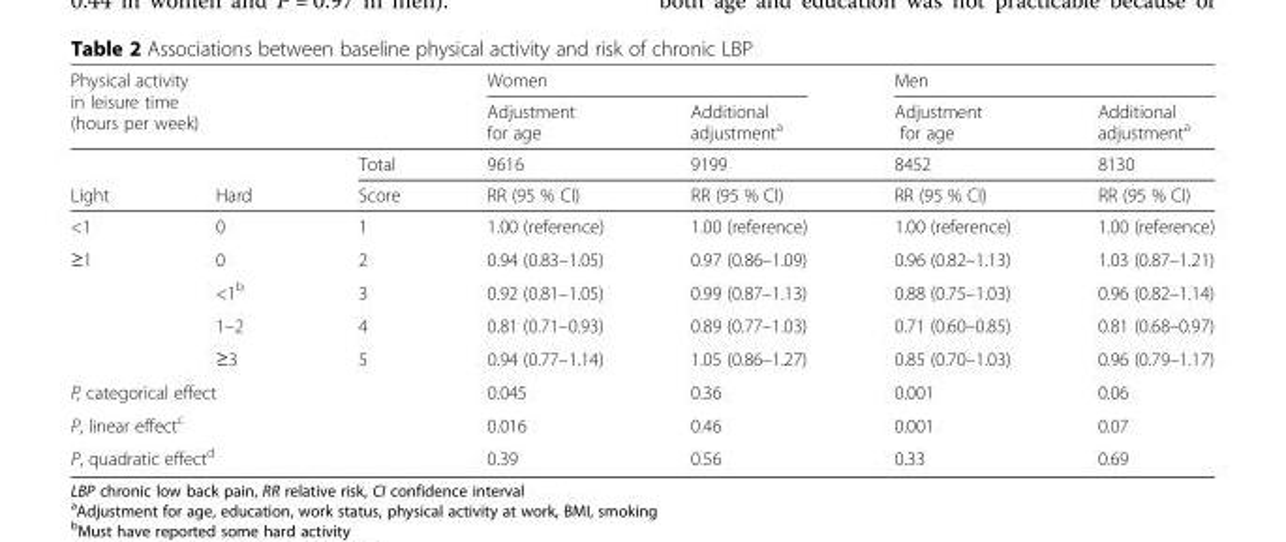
<table><thead><tr><td rowspan="2" colspan="2">Physical activity in leisure time (hours per week)</td><td rowspan="4">Total Score</td><td colspan="2">Women</td><td colspan="2">Men</td></tr><tr><td rowspan="3">Adjustment for age 9616 RR (95 % CI)</td><td rowspan="3">Additional adjustment<sup>a</sup> 9199 RR (95 % CI)</td><td rowspan="3">Adjustment for age 8452 RR (95 % CI)</td><td rowspan="3">Additional adjustment<sup>a</sup> 8130 RR (95 % CI)</td></tr><tr><td rowspan="2">Light</td><td rowspan="2">Hard</td></tr><tr></tr></thead><tbody><tr><td>&lt;1</td><td>0</td><td>1</td><td>1.00 (reference)</td><td>1.00 (reference)</td><td>1.00 (reference)</td><td>1.00 (reference)</td></tr><tr><td rowspan="4">≥1</td><td>0</td><td>2</td><td>0.94 (0.83–1.05)</td><td>0.97 (0.86–1.09)</td><td>0.96 (0.82–1.13)</td><td>1.03 (0.87–1.21)</td></tr><tr><td>&lt;1<sup>b</sup></td><td>3</td><td>0.92 (0.81–1.05)</td><td>0.99 (0.87–1.13)</td><td>0.88 (0.75–1.03)</td><td>0.96 (0.82–1.14)</td></tr><tr><td>1–2</td><td>4</td><td>0.81 (0.71–0.93)</td><td>0.89 (0.77–1.03)</td><td>0.71 (0.60–0.85)</td><td>0.81 (0.68–0.97)</td></tr><tr><td>≥3</td><td>5</td><td>0.94 (0.77–1.14)</td><td>1.05 (0.86–1.27)</td><td>0.85 (0.70–1.03)</td><td>0.96 (0.79–1.17)</td></tr><tr><td colspan="3">P, categorical effect</td><td>0.045</td><td>0.36</td><td>0.001</td><td>0.06</td></tr><tr><td colspan="3">P, linear effect<sup>c</sup></td><td>0.016</td><td>0.46</td><td>0.001</td><td>0.07</td></tr><tr><td colspan="3">P, quadratic effect<sup>d</sup></td><td>0.39</td><td>0.56</td><td>0.33</td><td>0.69</td></tr></tbody></table>